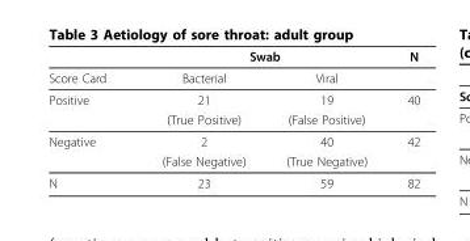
<table><thead><tr><td rowspan="2">Score Card</td><td colspan="2">Swab</td><td rowspan="2">N</td></tr><tr><td>Bacterial</td><td>Viral</td></tr></thead><tbody><tr><td rowspan="2">Positive</td><td>21</td><td>19</td><td>40</td></tr><tr><td>(True Positive)</td><td>(False Positive)</td><td></td></tr><tr><td rowspan="2">Negative</td><td>2</td><td>40</td><td>42</td></tr><tr><td>(False Negative)</td><td>(True Negative)</td><td></td></tr><tr><td>N</td><td>23</td><td>59</td><td>82</td></tr></tbody></table>